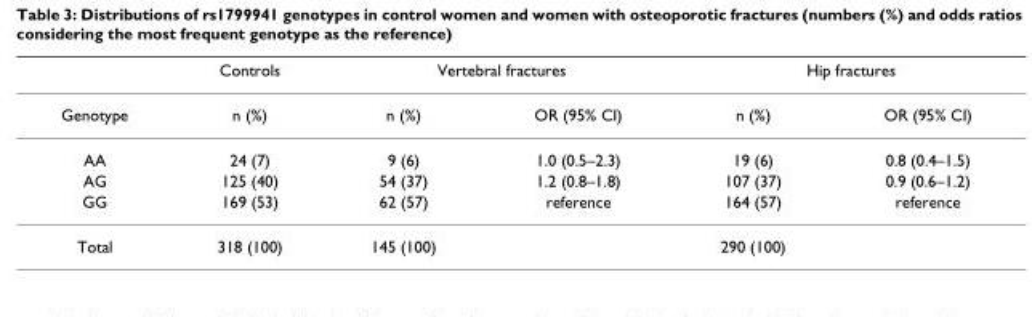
<table><thead><tr><td rowspan="2">Genotype</td><td rowspan="2">Controls n (%)</td><td colspan="2">Vertebral fractures</td><td colspan="2">Hip fractures</td></tr><tr><td>n (%)</td><td>OR (95% CI)</td><td>n (%)</td><td>OR (95% CI)</td></tr></thead><tbody><tr><td>AA</td><td>24 (7)</td><td>9 (6)</td><td>1.0 (0.5–2.3)</td><td>19 (6)</td><td>0.8 (0.4–1.5)</td></tr><tr><td>AG</td><td>125 (40)</td><td>54 (37)</td><td>1.2 (0.8–1.8)</td><td>107 (37)</td><td>0.9 (0.6–1.2)</td></tr><tr><td>GG</td><td>169 (53)</td><td>62 (57)</td><td>reference</td><td>164 (57)</td><td>reference</td></tr><tr><td>Total</td><td>318 (100)</td><td>145 (100)</td><td></td><td>290 (100)</td><td></td></tr></tbody></table>